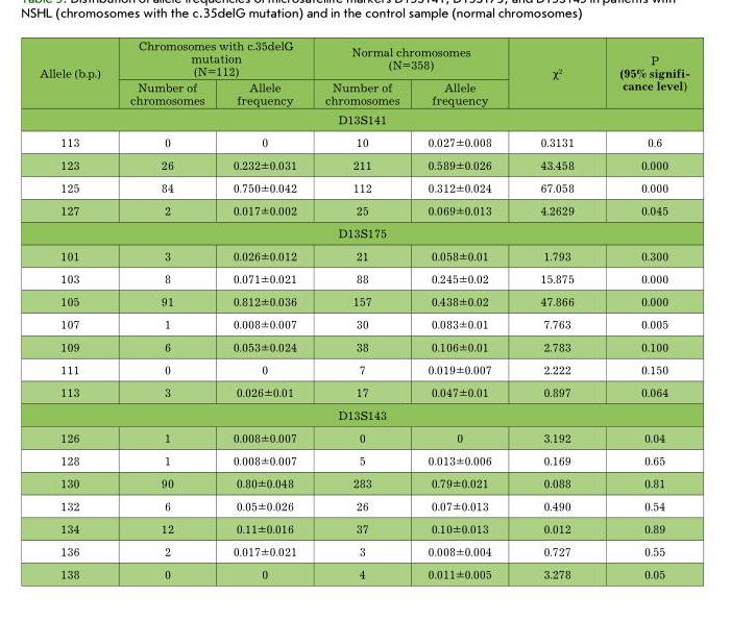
<table><thead><tr><td rowspan="2">Allele (b.p.)</td><td colspan="2">Chromosomes with c.35delG mutation (N=112)</td><td colspan="2">Normal chromosomes (N=358)</td><td rowspan="2">χ<sup>2</sup></td><td rowspan="2">Р (95% signifi- cance level)</td></tr><tr><td>Number of chromosomes</td><td>Allele frequency</td><td>Number of chromosomes</td><td>Allele frequency</td></tr></thead><tbody><tr><td colspan="7">D13S141</td></tr><tr><td>113</td><td>0</td><td>0</td><td>10</td><td>0.027±0.008</td><td>0.3131</td><td>0.6</td></tr><tr><td>123</td><td>26</td><td>0.232±0.031</td><td>211</td><td>0.589±0.026</td><td>43.458</td><td>0.000</td></tr><tr><td>125</td><td>84</td><td>0.750±0.042</td><td>112</td><td>0.312±0.024</td><td>67.058</td><td>0.000</td></tr><tr><td>127</td><td>2</td><td>0.017±0.002</td><td>25</td><td>0.069±0.013</td><td>4.2629</td><td>0.045</td></tr><tr><td colspan="7">D13S175</td></tr><tr><td>101</td><td>3</td><td>0.026±0.012</td><td>21</td><td>0.058±0.01</td><td>1.793</td><td>0.300</td></tr><tr><td>103</td><td>8</td><td>0.071±0.021</td><td>88</td><td>0.245±0.02</td><td>15.875</td><td>0.000</td></tr><tr><td>105</td><td>91</td><td>0.812±0.036</td><td>157</td><td>0.438±0.02</td><td>47.866</td><td>0.000</td></tr><tr><td>107</td><td>1</td><td>0.008±0.007</td><td>30</td><td>0.083±0.01</td><td>7.763</td><td>0.005</td></tr><tr><td>109</td><td>6</td><td>0.053±0.024</td><td>38</td><td>0.106±0.01</td><td>2.783</td><td>0.100</td></tr><tr><td>111</td><td>0</td><td>0</td><td>7</td><td>0.019±0.007</td><td>2.222</td><td>0.150</td></tr><tr><td>113</td><td>3</td><td>0.026±0.01</td><td>17</td><td>0.047±0.01</td><td>0.897</td><td>0.064</td></tr><tr><td colspan="7">D13S143</td></tr><tr><td>126</td><td>1</td><td>0.008±0.007</td><td>0</td><td>0</td><td>3.192</td><td>0.04</td></tr><tr><td>128</td><td>1</td><td>0.008±0.007</td><td>5</td><td>0.013±0.006</td><td>0.169</td><td>0.65</td></tr><tr><td>130</td><td>90</td><td>0.80±0.048</td><td>283</td><td>0.79±0.021</td><td>0.088</td><td>0.81</td></tr><tr><td>132</td><td>6</td><td>0.05±0.026</td><td>26</td><td>0.07±0.013</td><td>0.490</td><td>0.54</td></tr><tr><td>134</td><td>12</td><td>0.11±0.016</td><td>37</td><td>0.10±0.013</td><td>0.012</td><td>0.89</td></tr><tr><td>136</td><td>2</td><td>0.017±0.021</td><td>3</td><td>0.008±0.004</td><td>0.727</td><td>0.55</td></tr><tr><td>138</td><td>0</td><td>0</td><td>4</td><td>0.011±0.005</td><td>3.278</td><td>0.05</td></tr></tbody></table>